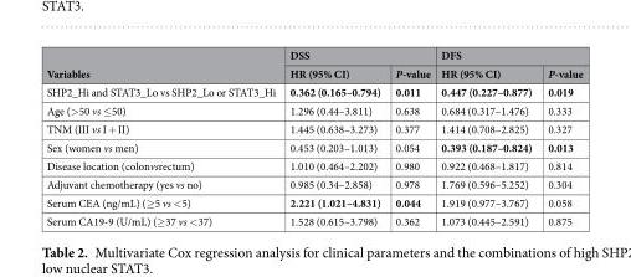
<table><thead><tr><td rowspan="2">Variables</td><td colspan="2">DSS</td><td colspan="2">DFS</td></tr><tr><td>HR (95% CI)</td><td>P-value</td><td>HR (95% CI)</td><td>P-value</td></tr></thead><tbody><tr><td>SHP2_Hi and STAT3_Lo vs SHP2_Lo or STAT3_Hi</td><td>0.362 (0.165–0.794)</td><td>0.011</td><td>0.447 (0.227–0.877)</td><td>0.019</td></tr><tr><td>Age (&gt;50 vs ≤50)</td><td>1.296 (0.44–3.811)</td><td>0.638</td><td>0.684 (0.317–1.476)</td><td>0.333</td></tr><tr><td>TNM (III vs I + II)</td><td>1.445 (0.638–3.273)</td><td>0.377</td><td>1.414 (0.708–2.825)</td><td>0.327</td></tr><tr><td>Sex (women vs men)</td><td>0.453 (0.203–1.013)</td><td>0.054</td><td>0.393 (0.187–0.824)</td><td>0.013</td></tr><tr><td>Disease location (colonvsrectum)</td><td>1.010 (0.464–2.202)</td><td>0.980</td><td>0.922 (0.468–1.817)</td><td>0.814</td></tr><tr><td>Adjuvant chemotherapy (yes vs no)</td><td>0.985 (0.34–2.858)</td><td>0.978</td><td>1.769 (0.596–5.252)</td><td>0.304</td></tr><tr><td>Serum CEA (ng/mL) (≥5 vs &lt;5)</td><td>2.221 (1.021–4.831)</td><td>0.044</td><td>1.919 (0.977–3.767)</td><td>0.058</td></tr><tr><td>Serum CA19-9 (U/mL) (≥37 vs &lt;37)</td><td>1.528 (0.615–3.798)</td><td>0.362</td><td>1.073 (0.445–2.591)</td><td>0.875</td></tr></tbody></table>